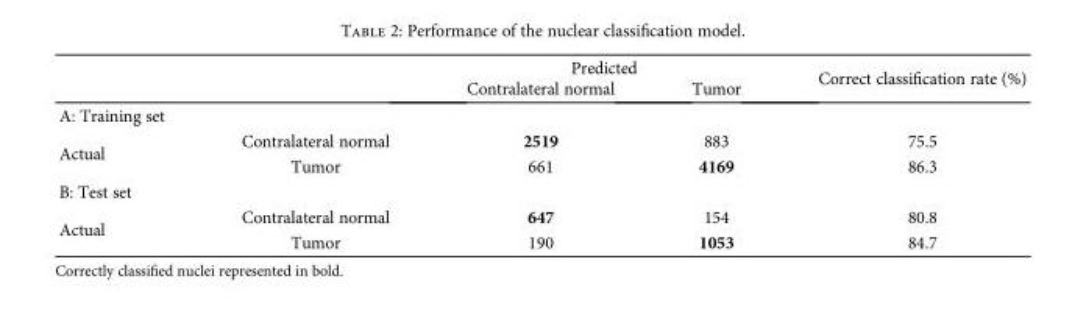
<table><thead><tr><td rowspan="2"></td><td rowspan="2"></td><td colspan="2">Predicted</td><td rowspan="2">Correct classification rate (%)</td></tr><tr><td>Contralateral normal</td><td>Tumor</td></tr></thead><tbody><tr><td colspan="5">A: Training set</td></tr><tr><td rowspan="2">Actual</td><td>Contralateral normal</td><td>2519</td><td>883</td><td>75.5</td></tr><tr><td>Tumor</td><td>661</td><td>4169</td><td>86.3</td></tr><tr><td colspan="5">B: Test set</td></tr><tr><td rowspan="2">Actual</td><td>Contralateral normal</td><td>647</td><td>154</td><td>80.8</td></tr><tr><td>Tumor</td><td>190</td><td>1053</td><td>84.7</td></tr></tbody></table>